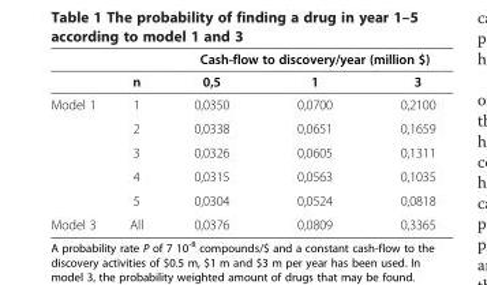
<table><thead><tr><td rowspan="2"></td><td rowspan="2">n</td><td colspan="3">Cash-flow to discovery/year (million $)</td></tr><tr><td>0,5</td><td>1</td><td>3</td></tr></thead><tbody><tr><td rowspan="5">Model 1</td><td>1</td><td>0,0350</td><td>0,0700</td><td>0,2100</td></tr><tr><td>2</td><td>0,0338</td><td>0,0651</td><td>0,1659</td></tr><tr><td>3</td><td>0,0326</td><td>0,0605</td><td>0,1311</td></tr><tr><td>4</td><td>0,0315</td><td>0,0563</td><td>0,1035</td></tr><tr><td>5</td><td>0,0304</td><td>0,0524</td><td>0,0818</td></tr><tr><td>Model 3</td><td>All</td><td>0,0376</td><td>0,0809</td><td>0,3365</td></tr></tbody></table>